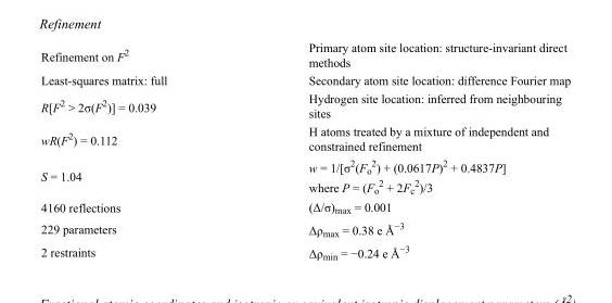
<table><tbody><tr><td>Refinement on F<sup>2</sup></td><td>Primary atom site location: structure-invariant direct methods</td></tr><tr><td>Least-squares matrix: full</td><td>Secondary atom site location: difference Fourier map</td></tr><tr><td>R[F<sup>2</sup> &gt; 2σ(F<sup>2</sup>)] = 0.039</td><td>Hydrogen site location: inferred from neighbouring sites</td></tr><tr><td>wR(F<sup>2</sup>) = 0.112</td><td>H atoms treated by a mixture of independent and constrained refinement</td></tr><tr><td>S = 1.04</td><td>w = 1/[σ<sup>2</sup>(F<sub>o</sub> <sup>2</sup>) + (0.0617P)<sup>2</sup> + 0.4837P] where P = (F<sub>o</sub> <sup>2</sup> + 2F<sub>c</sub> <sup>2</sup>)/3</td></tr><tr><td>4160 reflections</td><td>(Δ/σ)<sub>max</sub> = 0.001</td></tr><tr><td>229 parameters</td><td>Δρ<sub>max</sub> = 0.38 e Å<sup>−3</sup></td></tr><tr><td>2 restraints</td><td>Δρ<sub>min</sub> = −0.24 e Å<sup>−3</sup></td></tr></tbody></table>